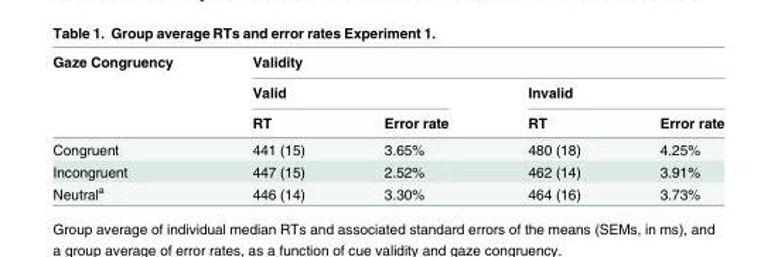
<table><thead><tr><td rowspan="3">Gaze Congruency</td><td colspan="4">Validity</td></tr><tr><td colspan="2">Valid</td><td colspan="2">Invalid</td></tr><tr><td>RT</td><td>Error rate</td><td>RT</td><td>Error rate</td></tr></thead><tbody><tr><td>Congruent</td><td>441 (15)</td><td>3.65%</td><td>480 (18)</td><td>4.25%</td></tr><tr><td>Incongruent</td><td>447 (15)</td><td>2.52%</td><td>462 (14)</td><td>3.91%</td></tr><tr><td>Neutral<sup>a</sup></td><td>446 (14)</td><td>3.30%</td><td>464 (16)</td><td>3.73%</td></tr></tbody></table>